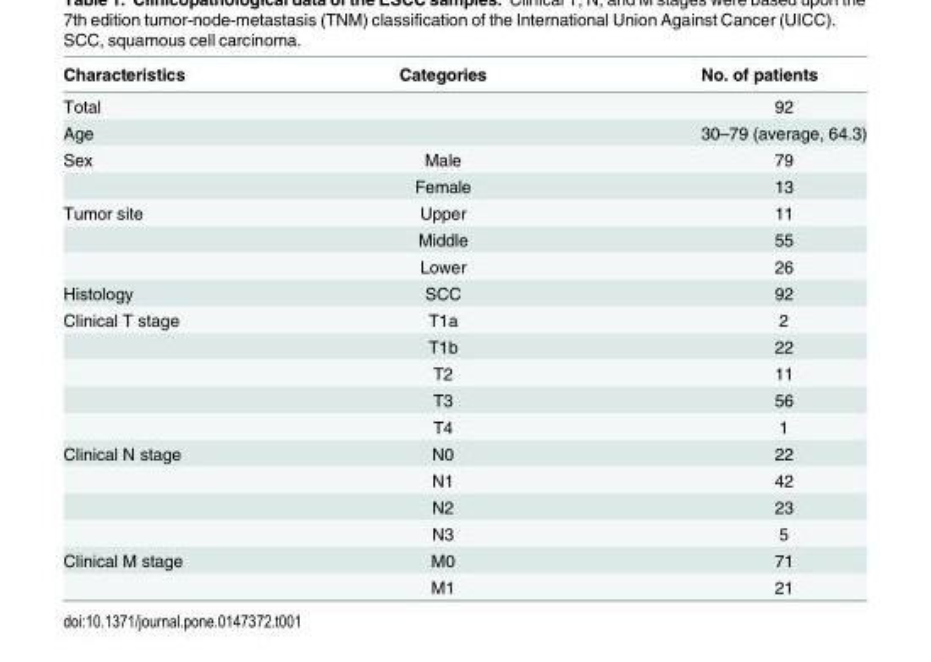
<table><thead><tr><td>Characteristics</td><td>Categories</td><td>No. of patients</td></tr></thead><tbody><tr><td>Total</td><td></td><td>92</td></tr><tr><td>Age</td><td></td><td>30–79 (average, 64.3)</td></tr><tr><td rowspan="2">Sex</td><td>Male</td><td>79</td></tr><tr><td>Female</td><td>13</td></tr><tr><td rowspan="3">Tumor site</td><td>Upper</td><td>11</td></tr><tr><td>Middle</td><td>55</td></tr><tr><td>Lower</td><td>26</td></tr><tr><td>Histology</td><td>SCC</td><td>92</td></tr><tr><td rowspan="5">Clinical T stage</td><td>T1a</td><td>2</td></tr><tr><td>T1b</td><td>22</td></tr><tr><td>T2</td><td>11</td></tr><tr><td>T3</td><td>56</td></tr><tr><td>T4</td><td>1</td></tr><tr><td rowspan="4">Clinical N stage</td><td>N0</td><td>22</td></tr><tr><td>N1</td><td>42</td></tr><tr><td>N2</td><td>23</td></tr><tr><td>N3</td><td>5</td></tr><tr><td rowspan="2">Clinical M stage</td><td>M0</td><td>71</td></tr><tr><td>M1</td><td>21</td></tr></tbody></table>